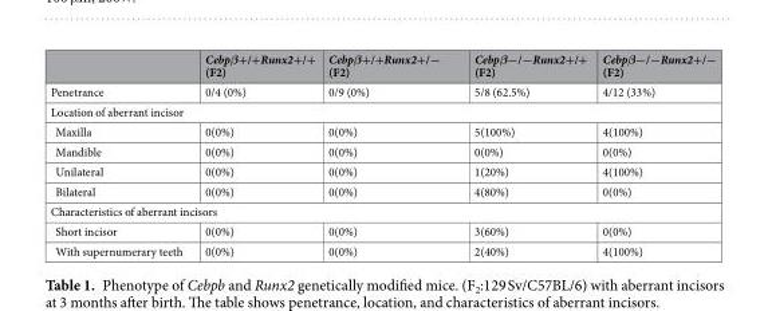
<table><thead><tr><td></td><td>Cebpβ+/+Runx2+/+ (F2)</td><td>Cebpβ+/+Runx2+/− (F2)</td><td>Cebpβ−/−Runx2+/+ (F2)</td><td>Cebpβ−/−Runx2+/− (F2)</td></tr></thead><tbody><tr><td>Penetrance</td><td>0/4 (0%)</td><td>0/9 (0%)</td><td>5/8 (62.5%)</td><td>4/12 (33%)</td></tr><tr><td colspan="5">Location of aberrant incisor</td></tr><tr><td>Maxilla</td><td>0(0%)</td><td>0(0%)</td><td>5(100%)</td><td>4(100%)</td></tr><tr><td>Mandible</td><td>0(0%)</td><td>0(0%)</td><td>0(0%)</td><td>0(0%)</td></tr><tr><td>Unilateral</td><td>0(0%)</td><td>0(0%)</td><td>1(20%)</td><td>4(100%)</td></tr><tr><td>Bilateral</td><td>0(0%)</td><td>0(0%)</td><td>4(80%)</td><td>0(0%)</td></tr><tr><td colspan="5">Characteristics of aberrant incisors</td></tr><tr><td>Short incisor</td><td>0(0%)</td><td>0(0%)</td><td>3(60%)</td><td>0(0%)</td></tr><tr><td>With supernumerary teeth</td><td>0(0%)</td><td>0(0%)</td><td>2(40%)</td><td>4(100%)</td></tr></tbody></table>